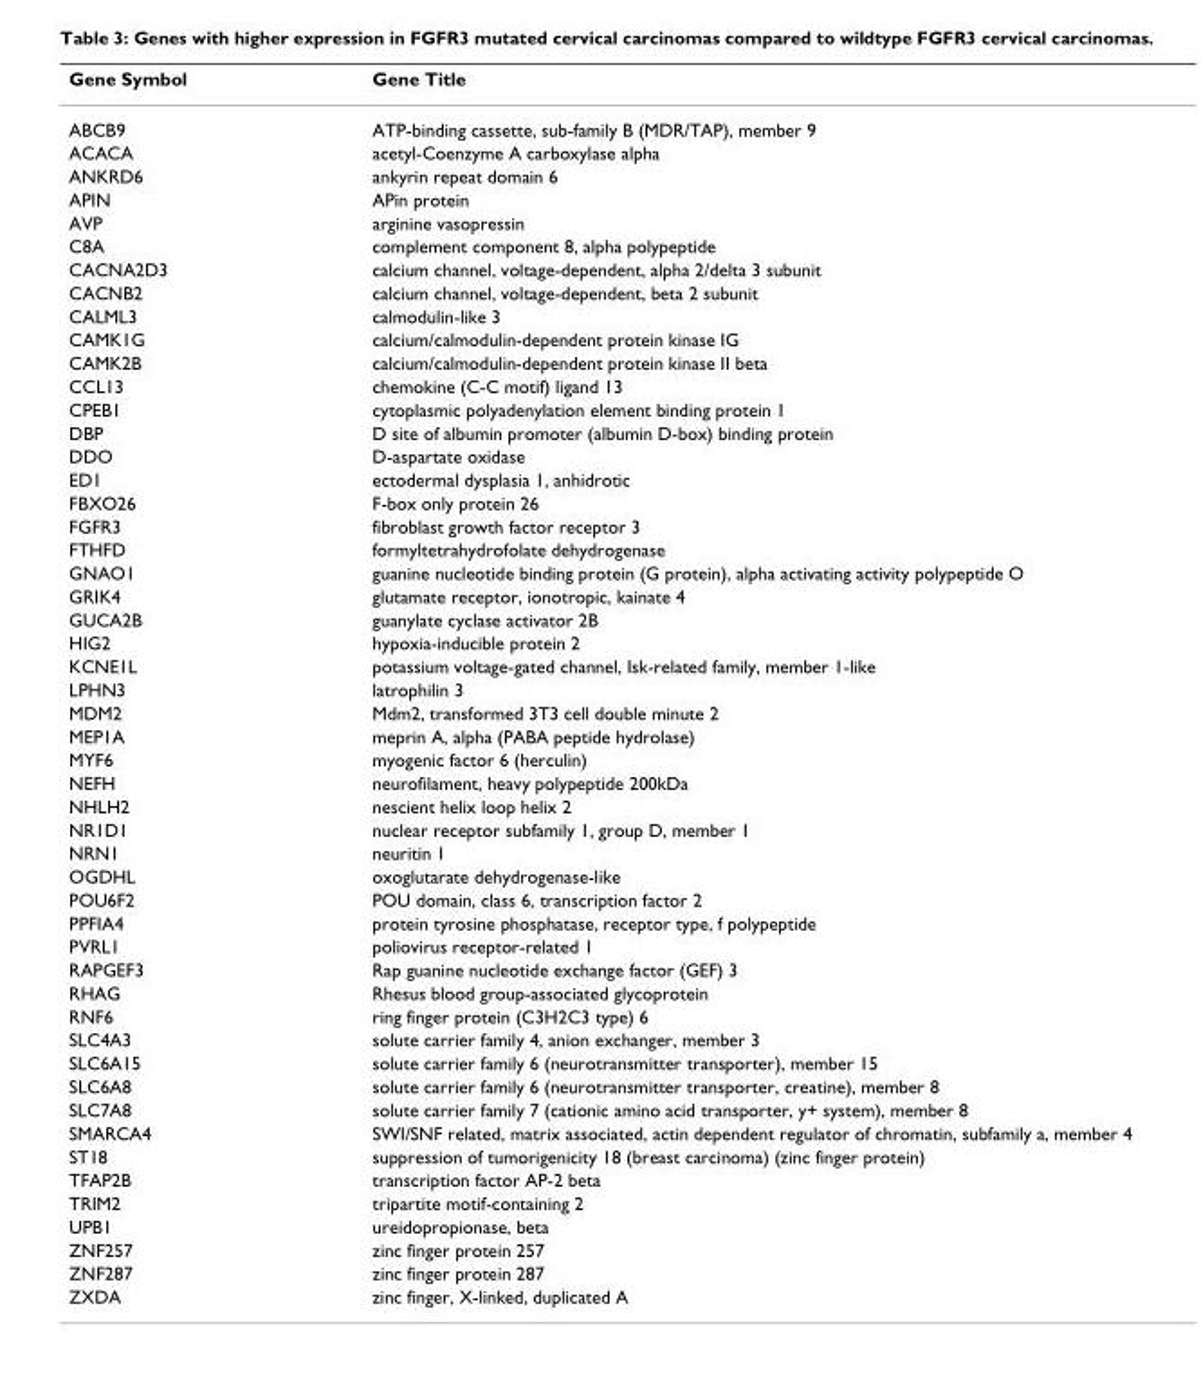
<table><thead><tr><td>Gene Symbol</td><td>Gene Title</td></tr></thead><tbody><tr><td>ABCB9</td><td>ATP-binding cassette, sub-family B (MDR/TAP), member 9</td></tr><tr><td>ACACA</td><td>acetyl-Coenzyme A carboxylase alpha</td></tr><tr><td>ANKRD6</td><td>ankyrin repeat domain 6</td></tr><tr><td>APIN</td><td>APin protein</td></tr><tr><td>AVP</td><td>arginine vasopressin</td></tr><tr><td>C8A</td><td>complement component 8, alpha polypeptide</td></tr><tr><td>CACNA2D3</td><td>calcium channel, voltage-dependent, alpha 2/delta 3 subunit</td></tr><tr><td>CACNB2</td><td>calcium channel, voltage-dependent, beta 2 subunit</td></tr><tr><td>CALML3</td><td>calmodulin-like 3</td></tr><tr><td>CAMK1G</td><td>calcium/calmodulin-dependent protein kinase IG</td></tr><tr><td>CAMK2B</td><td>calcium/calmodulin-dependent protein kinase II beta</td></tr><tr><td>CCL13</td><td>chemokine (C-C motif) ligand 13</td></tr><tr><td>CPEB1</td><td>cytoplasmic polyadenylation element binding protein 1</td></tr><tr><td>DBP</td><td>D site of albumin promoter (albumin D-box) binding protein</td></tr><tr><td>DDO</td><td>D-aspartate oxidase</td></tr><tr><td>ED1</td><td>ectodermal dysplasia 1, anhidrotic</td></tr><tr><td>FBXO26</td><td>F-box only protein 26</td></tr><tr><td>FGFR3</td><td>fibroblast growth factor receptor 3</td></tr><tr><td>FTHFD</td><td>formyltetrahydrofolate dehydrogenase</td></tr><tr><td>GNAO1</td><td>guanine nucleotide binding protein (G protein), alpha activating activity polypeptide O</td></tr><tr><td>GRIK4</td><td>glutamate receptor, ionotropic, kainate 4</td></tr><tr><td>GUCA2B</td><td>guanylate cyclase activator 2B</td></tr><tr><td>HIG2</td><td>hypoxia-inducible protein 2</td></tr><tr><td>KCNE1L</td><td>potassium voltage-gated channel, Isk-related family, member 1-like</td></tr><tr><td>LPHN3</td><td>latrophilin 3</td></tr><tr><td>MDM2</td><td>Mdm2, transformed 3T3 cell double minute 2</td></tr><tr><td>MEP1A</td><td>meprin A, alpha (PABA peptide hydrolase)</td></tr><tr><td>MYF6</td><td>myogenic factor 6 (herculin)</td></tr><tr><td>NEFH</td><td>neurofilament, heavy polypeptide 200kDa</td></tr><tr><td>NHLH2</td><td>nescient helix loop helix 2</td></tr><tr><td>NR1D1</td><td>nuclear receptor subfamily 1, group D, member 1</td></tr><tr><td>NRN1</td><td>neuritin 1</td></tr><tr><td>OGDHL</td><td>oxoglutarate dehydrogenase-like</td></tr><tr><td>POU6F2</td><td>POU domain, class 6, transcription factor 2</td></tr><tr><td>PPFIA4</td><td>protein tyrosine phosphatase, receptor type, f polypeptide</td></tr><tr><td>PVRL1</td><td>poliovirus receptor-related 1</td></tr><tr><td>RAPGEF3</td><td>Rap guanine nucleotide exchange factor (GEF) 3</td></tr><tr><td>RHAG</td><td>Rhesus blood group-associated glycoprotein</td></tr><tr><td>RNF6</td><td>ring finger protein (C3H2C3 type) 6</td></tr><tr><td>SLC4A3</td><td>solute carrier family 4, anion exchanger, member 3</td></tr><tr><td>SLC6A15</td><td>solute carrier family 6 (neurotransmitter transporter), member 15</td></tr><tr><td>SLC6A8</td><td>solute carrier family 6 (neurotransmitter transporter, creatine), member 8</td></tr><tr><td>SLC7A8</td><td>solute carrier family 7 (cationic amino acid transporter, y+ system), member 8</td></tr><tr><td>SMARCA4</td><td>SWI/SNF related, matrix associated, actin dependent regulator of chromatin, subfamily a, member 4</td></tr><tr><td>ST18</td><td>suppression of tumorigenicity 18 (breast carcinoma) (zinc finger protein)</td></tr><tr><td>TFAP2B</td><td>transcription factor AP-2 beta</td></tr><tr><td>TRIM2</td><td>tripartite motif-containing 2</td></tr><tr><td>UPB1</td><td>ureidopropionase, beta</td></tr><tr><td>ZNF257</td><td>zinc finger protein 257</td></tr><tr><td>ZNF287</td><td>zinc finger protein 287</td></tr><tr><td>ZXDA</td><td>zinc finger, X-linked, duplicated A</td></tr></tbody></table>